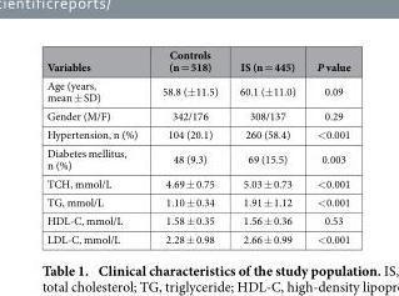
<table><thead><tr><td>Variables</td><td>Controls (n = 518)</td><td>IS (n = 445)</td><td>P value</td></tr></thead><tbody><tr><td>Age (years, mean ± SD)</td><td>58.8 (± 11.5)</td><td>60.1 (± 11.0)</td><td>0.09</td></tr><tr><td>Gender (M/F)</td><td>342/176</td><td>308/137</td><td>0.29</td></tr><tr><td>Hypertension, n (%)</td><td>104 (20.1)</td><td>260 (58.4)</td><td>&lt; 0.001</td></tr><tr><td>Diabetes mellitus, n (%)</td><td>48 (9.3)</td><td>69 (15.5)</td><td>0.003</td></tr><tr><td>TCH, mmol/L</td><td>4.69 ± 0.75</td><td>5.03 ± 0.73</td><td>&lt; 0.001</td></tr><tr><td>TG, mmol/L</td><td>1.10 ± 0.34</td><td>1.91 ± 1.12</td><td>&lt; 0.001</td></tr><tr><td>HDL-C, mmol/L</td><td>1.58 ± 0.35</td><td>1.56 ± 0.36</td><td>0.53</td></tr><tr><td>LDL-C, mmol/L</td><td>2.28 ± 0.98</td><td>2.66 ± 0.99</td><td>&lt; 0.001</td></tr></tbody></table>